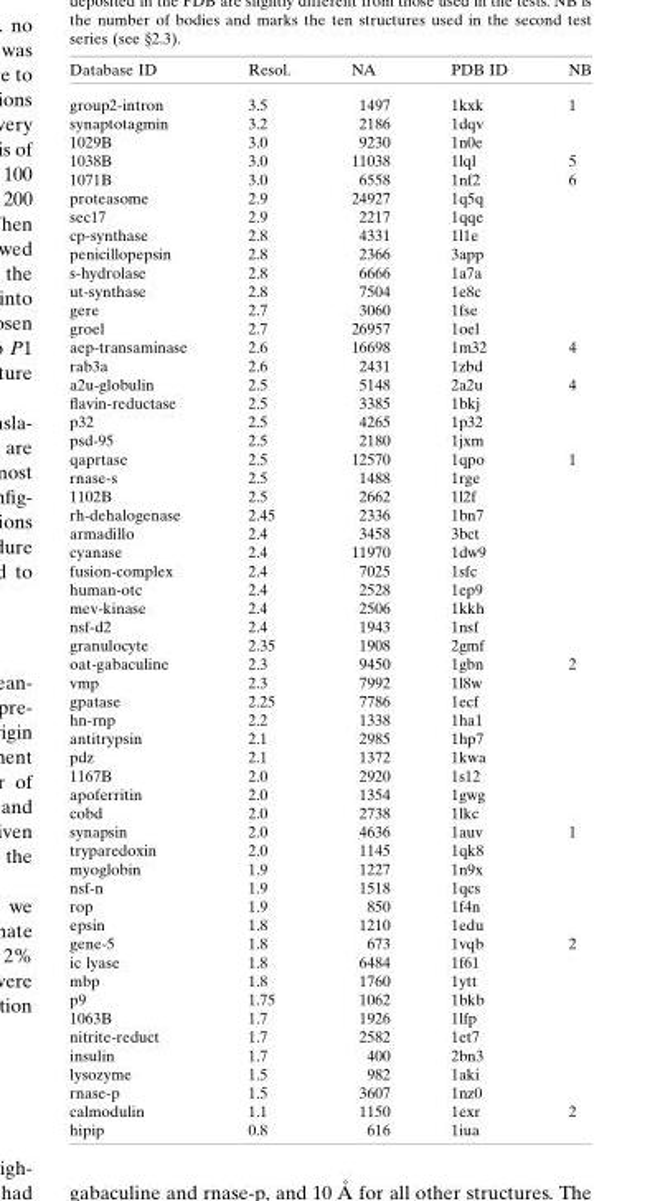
<table><thead><tr><td>Database ID</td><td>Resol.</td><td>NA</td><td>PDB ID</td><td>NB</td></tr></thead><tbody><tr><td>group2-intron</td><td>3.5</td><td>1497</td><td>1kxk</td><td>1</td></tr><tr><td>synaptotagmin</td><td>3.2</td><td>2186</td><td>1dqv</td><td></td></tr><tr><td>1029B</td><td>3.0</td><td>9230</td><td>1n0e</td><td></td></tr><tr><td>1038B</td><td>3.0</td><td>11038</td><td>1lql</td><td>5</td></tr><tr><td>1071B</td><td>3.0</td><td>6558</td><td>1nf2</td><td>6</td></tr><tr><td>proteasome</td><td>2.9</td><td>24927</td><td>1q5q</td><td></td></tr><tr><td>sec17</td><td>2.9</td><td>2217</td><td>1qqe</td><td></td></tr><tr><td>cp-synthase</td><td>2.8</td><td>4331</td><td>1l1e</td><td></td></tr><tr><td>penicillopepsin</td><td>2.8</td><td>2366</td><td>3app</td><td></td></tr><tr><td>s-hydrolase</td><td>2.8</td><td>6666</td><td>1a7a</td><td></td></tr><tr><td>ut-synthase</td><td>2.8</td><td>7504</td><td>1e8c</td><td></td></tr><tr><td>gere</td><td>2.7</td><td>3060</td><td>1fse</td><td></td></tr><tr><td>groel</td><td>2.7</td><td>26957</td><td>1oel</td><td></td></tr><tr><td>aep-transaminase</td><td>2.6</td><td>16698</td><td>1m32</td><td>4</td></tr><tr><td>rab3a</td><td>2.6</td><td>2431</td><td>1zbd</td><td></td></tr><tr><td>a2u-globulin</td><td>2.5</td><td>5148</td><td>2a2u</td><td>4</td></tr><tr><td>flavin-reductase</td><td>2.5</td><td>3385</td><td>1bkj</td><td></td></tr><tr><td>p32</td><td>2.5</td><td>4265</td><td>1p32</td><td></td></tr><tr><td>psd-95</td><td>2.5</td><td>2180</td><td>1jxm</td><td></td></tr><tr><td>qaprtase</td><td>2.5</td><td>12570</td><td>1qpo</td><td>1</td></tr><tr><td>rnase-s</td><td>2.5</td><td>1488</td><td>1rge</td><td></td></tr><tr><td>1102B</td><td>2.5</td><td>2662</td><td>1l2f</td><td></td></tr><tr><td>rh-dehalogenase</td><td>2.45</td><td>2336</td><td>1bn7</td><td></td></tr><tr><td>armadillo</td><td>2.4</td><td>3458</td><td>3bct</td><td></td></tr><tr><td>cyanase</td><td>2.4</td><td>11970</td><td>1dw9</td><td></td></tr><tr><td>fusion-complex</td><td>2.4</td><td>7025</td><td>1sfc</td><td></td></tr><tr><td>human-otc</td><td>2.4</td><td>2528</td><td>1ep9</td><td></td></tr><tr><td>mev-kinase</td><td>2.4</td><td>2506</td><td>1kkh</td><td></td></tr><tr><td>nsf-d2</td><td>2.4</td><td>1943</td><td>1nsf</td><td></td></tr><tr><td>granulocyte</td><td>2.35</td><td>1908</td><td>2gmf</td><td></td></tr><tr><td>oat-gabaculine</td><td>2.3</td><td>9450</td><td>1gbn</td><td>2</td></tr><tr><td>vmp</td><td>2.3</td><td>7992</td><td>1l8w</td><td></td></tr><tr><td>gpatase</td><td>2.25</td><td>7786</td><td>1ecf</td><td></td></tr><tr><td>hn-rnp</td><td>2.2</td><td>1338</td><td>1ha1</td><td></td></tr><tr><td>antitrypsin</td><td>2.1</td><td>2985</td><td>1hp7</td><td></td></tr><tr><td>pdz</td><td>2.1</td><td>1372</td><td>1kwa</td><td></td></tr><tr><td>1167B</td><td>2.0</td><td>2920</td><td>1s12</td><td></td></tr><tr><td>apoferritin</td><td>2.0</td><td>1354</td><td>1gwg</td><td></td></tr><tr><td>cobd</td><td>2.0</td><td>2738</td><td>1lkc</td><td></td></tr><tr><td>synapsin</td><td>2.0</td><td>4636</td><td>1auv</td><td>1</td></tr><tr><td>tryparedoxin</td><td>2.0</td><td>1145</td><td>1qk8</td><td></td></tr><tr><td>myoglobin</td><td>1.9</td><td>1227</td><td>1n9x</td><td></td></tr><tr><td>nsf-n</td><td>1.9</td><td>1518</td><td>1qcs</td><td></td></tr><tr><td>rop</td><td>1.9</td><td>850</td><td>1f4n</td><td></td></tr><tr><td>epsin</td><td>1.8</td><td>1210</td><td>1edu</td><td></td></tr><tr><td>gene-5</td><td>1.8</td><td>673</td><td>1vqb</td><td>2</td></tr><tr><td>ic lyase</td><td>1.8</td><td>6484</td><td>1f61</td><td></td></tr><tr><td>mbp</td><td>1.8</td><td>1760</td><td>1ytt</td><td></td></tr><tr><td>p9</td><td>1.75</td><td>1062</td><td>1bkb</td><td></td></tr><tr><td>1063B</td><td>1.7</td><td>1926</td><td>1lfp</td><td></td></tr><tr><td>nitrite-reduct</td><td>1.7</td><td>2582</td><td>1et7</td><td></td></tr><tr><td>insulin</td><td>1.7</td><td>400</td><td>2bn3</td><td></td></tr><tr><td>lysozyme</td><td>1.5</td><td>982</td><td>1aki</td><td></td></tr><tr><td>rnase-p</td><td>1.5</td><td>3607</td><td>1nz0</td><td></td></tr><tr><td>calmodulin</td><td>1.1</td><td>1150</td><td>1exr</td><td>2</td></tr><tr><td>hipip</td><td>0.8</td><td>616</td><td>1iua</td><td></td></tr></tbody></table>